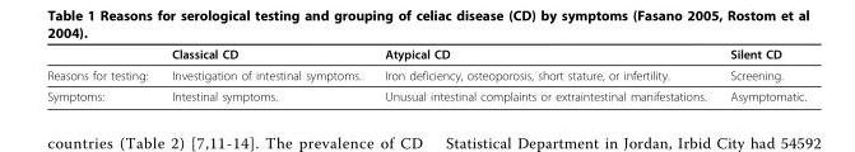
<table><thead><tr><td></td><td>Classical CD</td><td>Atypical CD</td><td>Silent CD</td></tr></thead><tbody><tr><td>Reasons for testing:</td><td>Investigation of intestinal symptoms.</td><td>Iron deficiency, osteoporosis, short stature, or infertility.</td><td>Screening.</td></tr><tr><td>Symptoms:</td><td>Intestinal symptoms.</td><td>Unusual intestinal complaints or extraintestinal manifestations.</td><td>Asymptomatic.</td></tr></tbody></table>